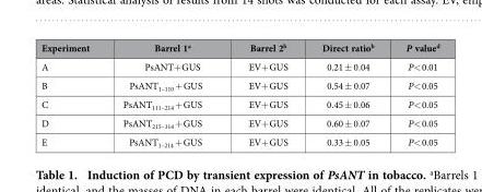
<table><thead><tr><td>Experiment</td><td>Barrel 1<sup>a</sup></td><td>Barrel 2<sup>b</sup></td><td>Direct ratio<sup>b</sup></td><td>P value<sup>d</sup></td></tr></thead><tbody><tr><td>A</td><td>PsANT+ GUS</td><td>EV+ GUS</td><td>0.21 ± 0.04</td><td>P&lt; 0.01</td></tr><tr><td>B</td><td>PsANT<sub>1–110</sub> + GUS</td><td>EV+ GUS</td><td>0.54 ± 0.07</td><td>P&lt; 0.05</td></tr><tr><td>C</td><td>PsANT<sub>111–214</sub> + GUS</td><td>EV+ GUS</td><td>0.45 ± 0.06</td><td>P&lt; 0.05</td></tr><tr><td>D</td><td>PsANT<sub>215–314</sub> + GUS</td><td>EV+ GUS</td><td>0.60 ± 0.07</td><td>P&lt; 0.05</td></tr><tr><td>E</td><td>PsANT<sub>1–214</sub> + GUS</td><td>EV+ GUS</td><td>0.33 ± 0.05</td><td>P&lt; 0.05</td></tr></tbody></table>